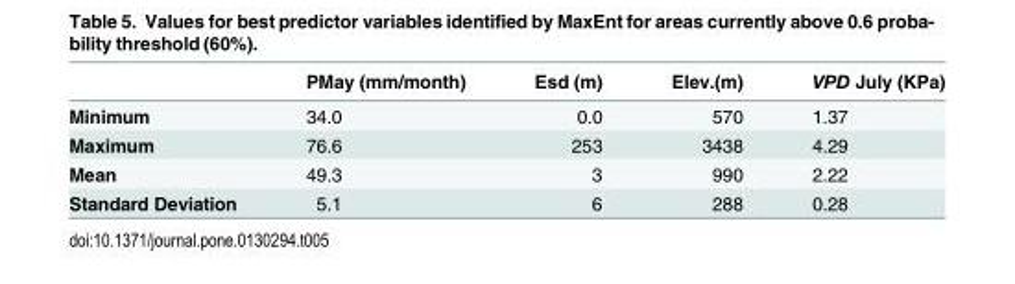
<table><thead><tr><td></td><td>PMay (mm/month)</td><td>Esd (m)</td><td>Elev.(m)</td><td>VPD July (KPa)</td></tr></thead><tbody><tr><td>Minimum</td><td>34.0</td><td>0.0</td><td>570</td><td>1.37</td></tr><tr><td>Maximum</td><td>76.6</td><td>253</td><td>3438</td><td>4.29</td></tr><tr><td>Mean</td><td>49.3</td><td>3</td><td>990</td><td>2.22</td></tr><tr><td>Standard Deviation</td><td>5.1</td><td>6</td><td>288</td><td>0.28</td></tr></tbody></table>